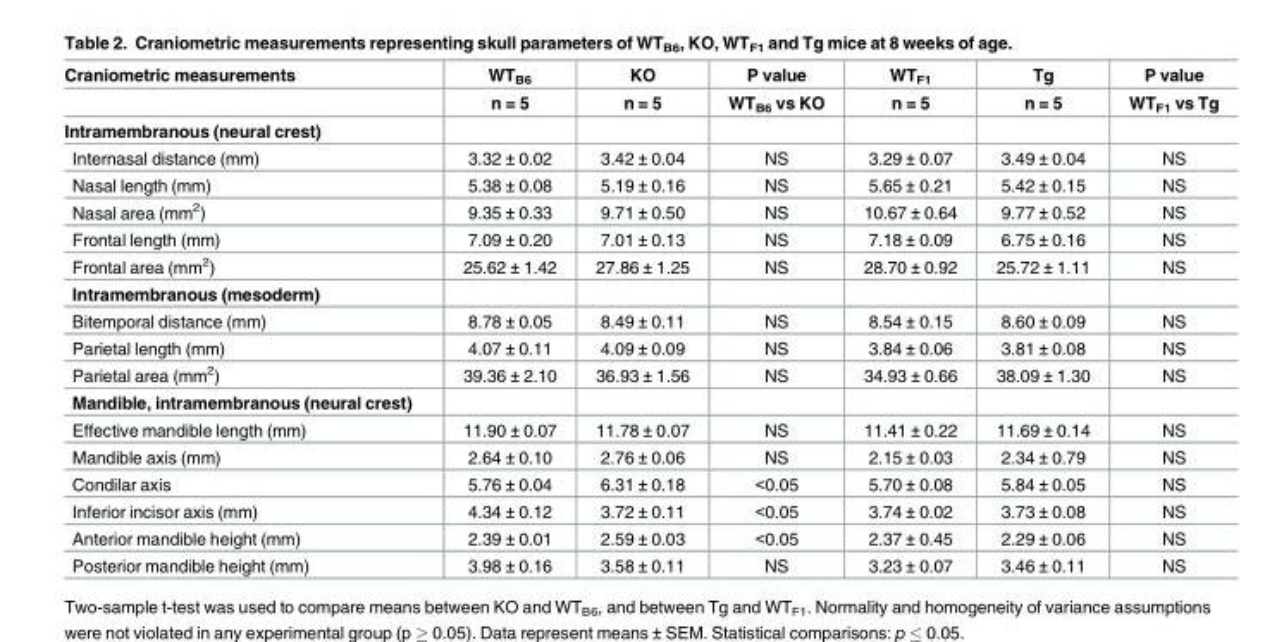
<table><thead><tr><td rowspan="2">Craniometric measurements</td><td rowspan="2">WT<sub>B6</sub> n = 5</td><td rowspan="2">KO n = 5</td><td rowspan="2">P value WT<sub>B6</sub> vs KO</td><td rowspan="2">WT<sub>F1</sub> n = 5</td><td rowspan="2">Tg n = 5</td><td rowspan="2">P value WT<sub>F1</sub> vs Tg</td></tr><tr></tr></thead><tbody><tr><td colspan="7">Intramembranous (neural crest)</td></tr><tr><td>Internasal distance (mm)</td><td>3.32 ± 0.02</td><td>3.42 ± 0.04</td><td>NS</td><td>3.29 ± 0.07</td><td>3.49 ± 0.04</td><td>NS</td></tr><tr><td>Nasal length (mm)</td><td>5.38 ± 0.08</td><td>5.19 ± 0.16</td><td>NS</td><td>5.65 ± 0.21</td><td>5.42 ± 0.15</td><td>NS</td></tr><tr><td>Nasal area (mm<sup>2</sup>)</td><td>9.35 ± 0.33</td><td>9.71 ± 0.50</td><td>NS</td><td>10.67 ± 0.64</td><td>9.77 ± 0.52</td><td>NS</td></tr><tr><td>Frontal length (mm)</td><td>7.09 ± 0.20</td><td>7.01 ± 0.13</td><td>NS</td><td>7.18 ± 0.09</td><td>6.75 ± 0.16</td><td>NS</td></tr><tr><td>Frontal area (mm<sup>2</sup>)</td><td>25.62 ± 1.42</td><td>27.86 ± 1.25</td><td>NS</td><td>28.70 ± 0.92</td><td>25.72 ± 1.11</td><td>NS</td></tr><tr><td colspan="7">Intramembranous (mesoderm)</td></tr><tr><td>Bitemporal distance (mm)</td><td>8.78 ± 0.05</td><td>8.49 ± 0.11</td><td>NS</td><td>8.54 ± 0.15</td><td>8.60 ± 0.09</td><td>NS</td></tr><tr><td>Parietal length (mm)</td><td>4.07 ± 0.11</td><td>4.09 ± 0.09</td><td>NS</td><td>3.84 ± 0.06</td><td>3.81 ± 0.08</td><td>NS</td></tr><tr><td>Parietal area (mm<sup>2</sup>)</td><td>39.36 ± 2.10</td><td>36.93 ± 1.56</td><td>NS</td><td>34.93 ± 0.66</td><td>38.09 ± 1.30</td><td>NS</td></tr><tr><td colspan="7">Mandible, intramembranous (neural crest)</td></tr><tr><td>Effective mandible length (mm)</td><td>11.90 ± 0.07</td><td>11.78 ± 0.07</td><td>NS</td><td>11.41 ± 0.22</td><td>11.69 ± 0.14</td><td>NS</td></tr><tr><td>Mandible axis (mm)</td><td>2.64 ± 0.10</td><td>2.76 ± 0.06</td><td>NS</td><td>2.15 ± 0.03</td><td>2.34 ± 0.79</td><td>NS</td></tr><tr><td>Condilar axis</td><td>5.76 ± 0.04</td><td>6.31 ± 0.18</td><td>&lt;0.05</td><td>5.70 ± 0.08</td><td>5.84 ± 0.05</td><td>NS</td></tr><tr><td>Inferior incisor axis (mm)</td><td>4.34 ± 0.12</td><td>3.72 ± 0.11</td><td>&lt;0.05</td><td>3.74 ± 0.02</td><td>3.73 ± 0.08</td><td>NS</td></tr><tr><td>Anterior mandible height (mm)</td><td>2.39 ± 0.01</td><td>2.59 ± 0.03</td><td>&lt;0.05</td><td>2.37 ± 0.45</td><td>2.29 ± 0.06</td><td>NS</td></tr><tr><td>Posterior mandible height (mm)</td><td>3.98 ± 0.16</td><td>3.58 ± 0.11</td><td>NS</td><td>3.23 ± 0.07</td><td>3.46 ± 0.11</td><td>NS</td></tr></tbody></table>